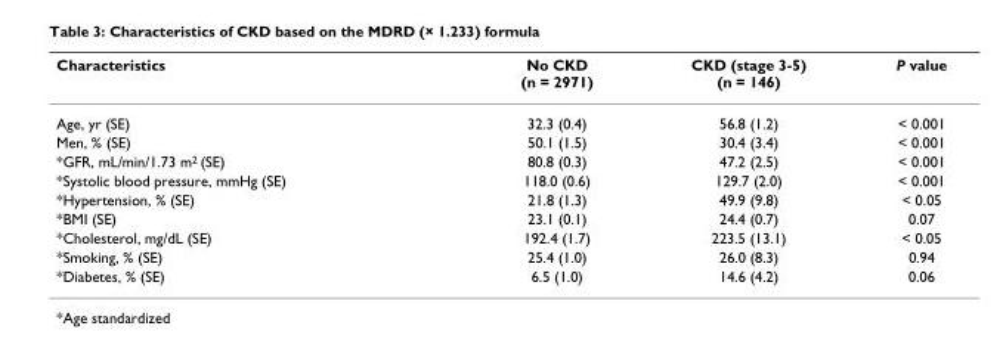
<table><thead><tr><td>Characteristics</td><td>No CKD (n = 2971)</td><td>CKD (stage 3-5) (n = 146)</td><td>P value</td></tr></thead><tbody><tr><td>Age, yr (SE)</td><td>32.3 (0.4)</td><td>56.8 (1.2)</td><td>&lt; 0.001</td></tr><tr><td>Men, % (SE)</td><td>50.1 (1.5)</td><td>30.4 (3.4)</td><td>&lt; 0.001</td></tr><tr><td>*GFR, mL/min/1.73 m<sup>2</sup> (SE)</td><td>80.8 (0.3)</td><td>47.2 (2.5)</td><td>&lt; 0.001</td></tr><tr><td>*Systolic blood pressure, mmHg (SE)</td><td>118.0 (0.6)</td><td>129.7 (2.0)</td><td>&lt; 0.001</td></tr><tr><td>*Hypertension, % (SE)</td><td>21.8 (1.3)</td><td>49.9 (9.8)</td><td>&lt; 0.05</td></tr><tr><td>*BMI (SE)</td><td>23.1 (0.1)</td><td>24.4 (0.7)</td><td>0.07</td></tr><tr><td>*Cholesterol, mg/dL (SE)</td><td>192.4 (1.7)</td><td>223.5 (13.1)</td><td>&lt; 0.05</td></tr><tr><td>*Smoking, % (SE)</td><td>25.4 (1.0)</td><td>26.0 (8.3)</td><td>0.94</td></tr><tr><td>*Diabetes, % (SE)</td><td>6.5 (1.0)</td><td>14.6 (4.2)</td><td>0.06</td></tr></tbody></table>